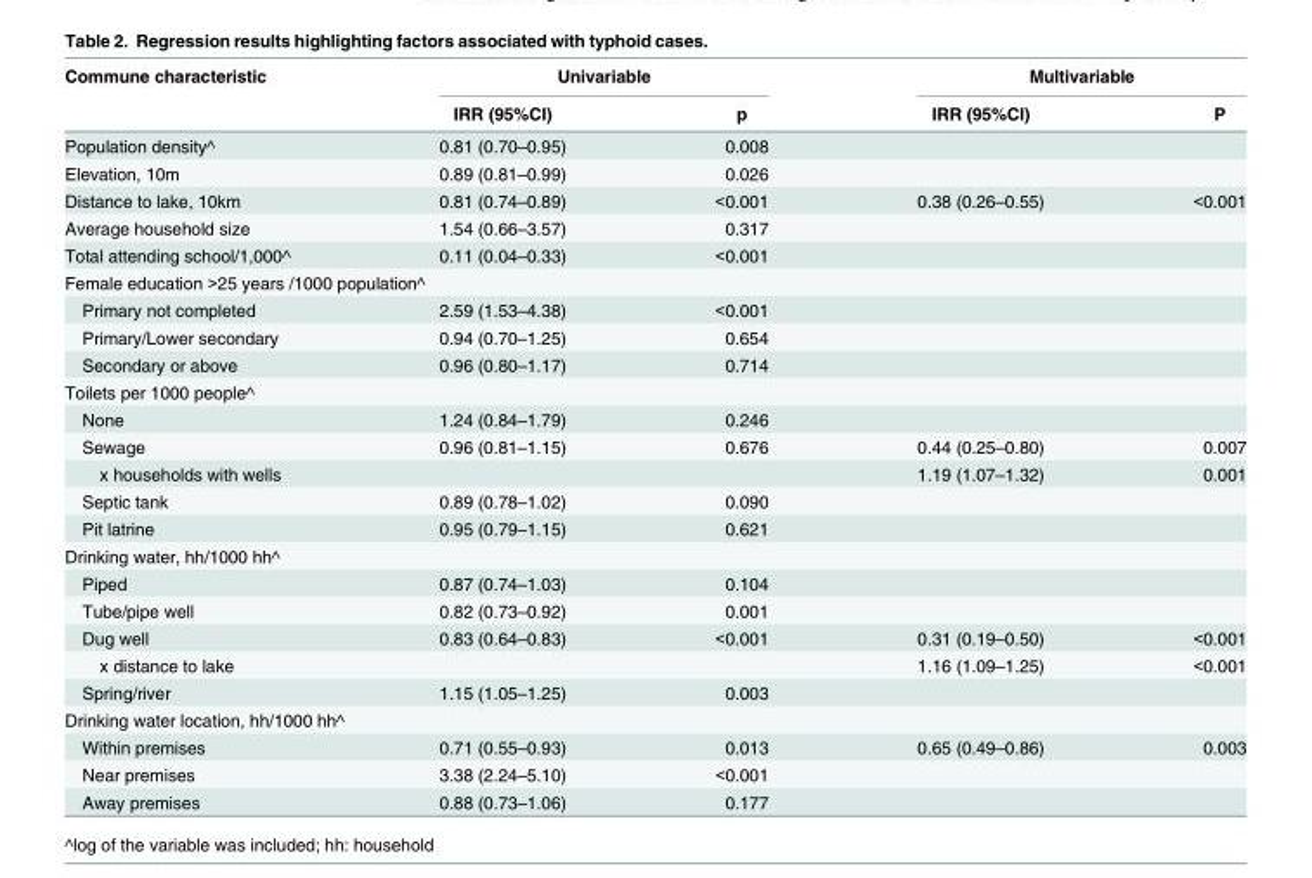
<table><thead><tr><td rowspan="2">Commune characteristic</td><td colspan="2">Univariable</td><td colspan="2">Multivariable</td></tr><tr><td>IRR (95%CI)</td><td>p</td><td>IRR (95%CI)</td><td>P</td></tr></thead><tbody><tr><td>Population density^</td><td>0.81 (0.70–0.95)</td><td>0.008</td><td></td><td></td></tr><tr><td>Elevation, 10m</td><td>0.89 (0.81–0.99)</td><td>0.026</td><td></td><td></td></tr><tr><td>Distance to lake, 10km</td><td>0.81 (0.74–0.89)</td><td>&lt;0.001</td><td>0.38 (0.26–0.55)</td><td>&lt;0.001</td></tr><tr><td>Average household size</td><td>1.54 (0.66–3.57)</td><td>0.317</td><td></td><td></td></tr><tr><td>Total attending school/1,000^</td><td>0.11 (0.04–0.33)</td><td>&lt;0.001</td><td></td><td></td></tr><tr><td colspan="5">Female education &gt;25 years /1000 population^</td></tr><tr><td>Primary not completed</td><td>2.59 (1.53–4.38)</td><td>&lt;0.001</td><td></td><td></td></tr><tr><td>Primary/Lower secondary</td><td>0.94 (0.70–1.25)</td><td>0.654</td><td></td><td></td></tr><tr><td>Secondary or above</td><td>0.96 (0.80–1.17)</td><td>0.714</td><td></td><td></td></tr><tr><td colspan="5">Toilets per 1000 people^</td></tr><tr><td>None</td><td>1.24 (0.84–1.79)</td><td>0.246</td><td></td><td></td></tr><tr><td>Sewage</td><td>0.96 (0.81–1.15)</td><td>0.676</td><td>0.44 (0.25–0.80)</td><td>0.007</td></tr><tr><td colspan="2">x households with wells</td><td></td><td>1.19 (1.07–1.32)</td><td>0.001</td></tr><tr><td>Septic tank</td><td>0.89 (0.78–1.02)</td><td>0.090</td><td></td><td></td></tr><tr><td>Pit latrine</td><td>0.95 (0.79–1.15)</td><td>0.621</td><td></td><td></td></tr><tr><td colspan="5">Drinking water, hh/1000 hh^</td></tr><tr><td>Piped</td><td>0.87 (0.74–1.03)</td><td>0.104</td><td></td><td></td></tr><tr><td>Tube/pipe well</td><td>0.82 (0.73–0.92)</td><td>0.001</td><td></td><td></td></tr><tr><td>Dug well</td><td>0.83 (0.64–0.83)</td><td>&lt;0.001</td><td>0.31 (0.19–0.50)</td><td>&lt;0.001</td></tr><tr><td colspan="2">x distance to lake</td><td></td><td>1.16 (1.09–1.25)</td><td>&lt;0.001</td></tr><tr><td>Spring/river</td><td>1.15 (1.05–1.25)</td><td>0.003</td><td></td><td></td></tr><tr><td colspan="5">Drinking water location, hh/1000 hh^</td></tr><tr><td>Within premises</td><td>0.71 (0.55–0.93)</td><td>0.013</td><td>0.65 (0.49–0.86)</td><td>0.003</td></tr><tr><td>Near premises</td><td>3.38 (2.24–5.10)</td><td>&lt;0.001</td><td></td><td></td></tr><tr><td>Away premises</td><td>0.88 (0.73–1.06)</td><td>0.177</td><td></td><td></td></tr></tbody></table>